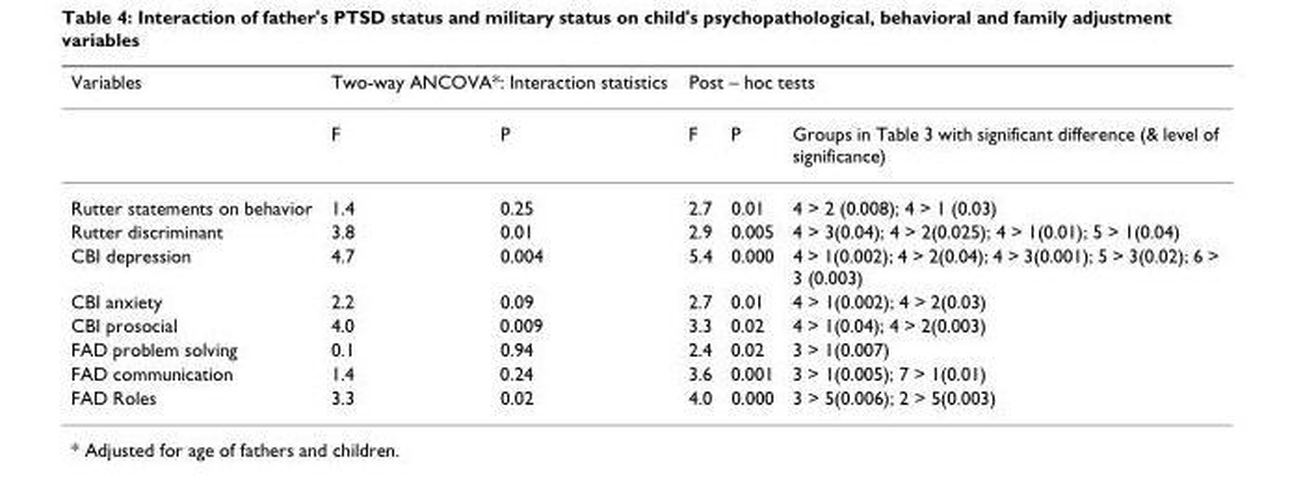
<table><thead><tr><td rowspan="2">Variables</td><td colspan="2">Two-way ANCOVA*: Interaction statistics</td><td colspan="3">Post – hoc tests</td></tr><tr><td>F</td><td>P</td><td>F</td><td>P</td><td>Groups in Table 3 with significant difference (&amp; level of significance)</td></tr></thead><tbody><tr><td>Rutter statements on behavior</td><td>1.4</td><td>0.25</td><td>2.7</td><td>0.01</td><td>4 &gt; 2 (0.008); 4 &gt; 1 (0.03)</td></tr><tr><td>Rutter discriminant</td><td>3.8</td><td>0.01</td><td>2.9</td><td>0.005</td><td>4 &gt; 3(0.04); 4 &gt; 2(0.025); 4 &gt; 1(0.01); 5 &gt; 1(0.04)</td></tr><tr><td>CBI depression</td><td>4.7</td><td>0.004</td><td>5.4</td><td>0.000</td><td>4 &gt; 1(0.002); 4 &gt; 2(0.04); 4 &gt; 3(0.001); 5 &gt; 3(0.02); 6 &gt; 3 (0.003)</td></tr><tr><td>CBI anxiety</td><td>2.2</td><td>0.09</td><td>2.7</td><td>0.01</td><td>4 &gt; 1(0.002); 4 &gt; 2(0.03)</td></tr><tr><td>CBI prosocial</td><td>4.0</td><td>0.009</td><td>3.3</td><td>0.02</td><td>4 &gt; 1(0.04); 4 &gt; 2(0.003)</td></tr><tr><td>FAD problem solving</td><td>0.1</td><td>0.94</td><td>2.4</td><td>0.02</td><td>3 &gt; 1(0.007)</td></tr><tr><td>FAD communication</td><td>1.4</td><td>0.24</td><td>3.6</td><td>0.001</td><td>3 &gt; 1(0.005); 7 &gt; 1(0.01)</td></tr><tr><td>FAD Roles</td><td>3.3</td><td>0.02</td><td>4.0</td><td>0.000</td><td>3 &gt; 5(0.006); 2 &gt; 5(0.003)</td></tr></tbody></table>